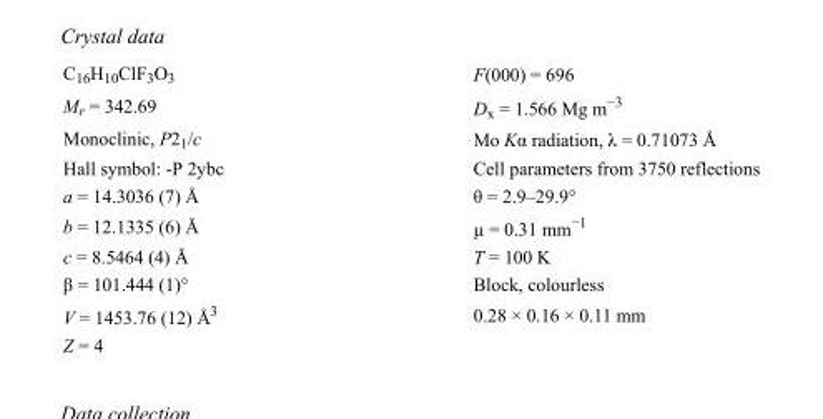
<table><tbody><tr><td>C<sub>16</sub>H<sub>10</sub>ClF<sub>3</sub>O<sub>3</sub></td><td>F(000) = 696</td></tr><tr><td>M<sub>r</sub> = 342.69</td><td>D<sub>x</sub> = 1.566 Mg m<sup>−3</sup></td></tr><tr><td>Monoclinic, P2<sub>1</sub>/c</td><td>Mo Kα radiation, λ = 0.71073 Å</td></tr><tr><td>Hall symbol: -P 2ybc</td><td>Cell parameters from 3750 reflections</td></tr><tr><td>a = 14.3036 (7) Å</td><td>θ = 2.9–29.9°</td></tr><tr><td>b = 12.1335 (6) Å</td><td>µ = 0.31 mm<sup>−1</sup></td></tr><tr><td>c = 8.5464 (4) Å</td><td>T = 100 K</td></tr><tr><td>β = 101.444 (1)°</td><td>Block, colourless</td></tr><tr><td>V = 1453.76 (12) Å<sup>3</sup></td><td>0.28 × 0.16 × 0.11 mm</td></tr><tr><td>Z = 4</td><td></td></tr></tbody></table>